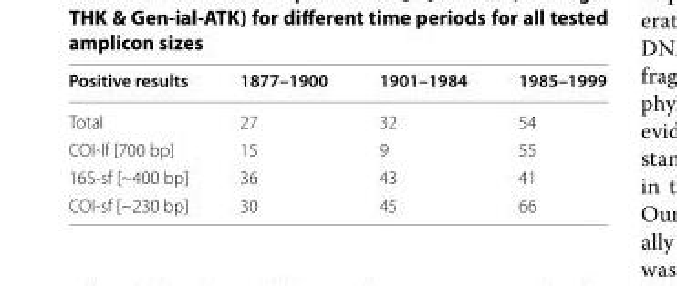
<table><thead><tr><td>Positive results</td><td>1877–1900</td><td>1901–1984</td><td>1985–1999</td></tr></thead><tbody><tr><td>Total</td><td>27</td><td>32</td><td>54</td></tr><tr><td>COI-lf [700 bp]</td><td>15</td><td>9</td><td>55</td></tr><tr><td>16S-sf [~400 bp]</td><td>36</td><td>43</td><td>41</td></tr><tr><td>COI-sf [~230 bp]</td><td>30</td><td>45</td><td>66</td></tr></tbody></table>